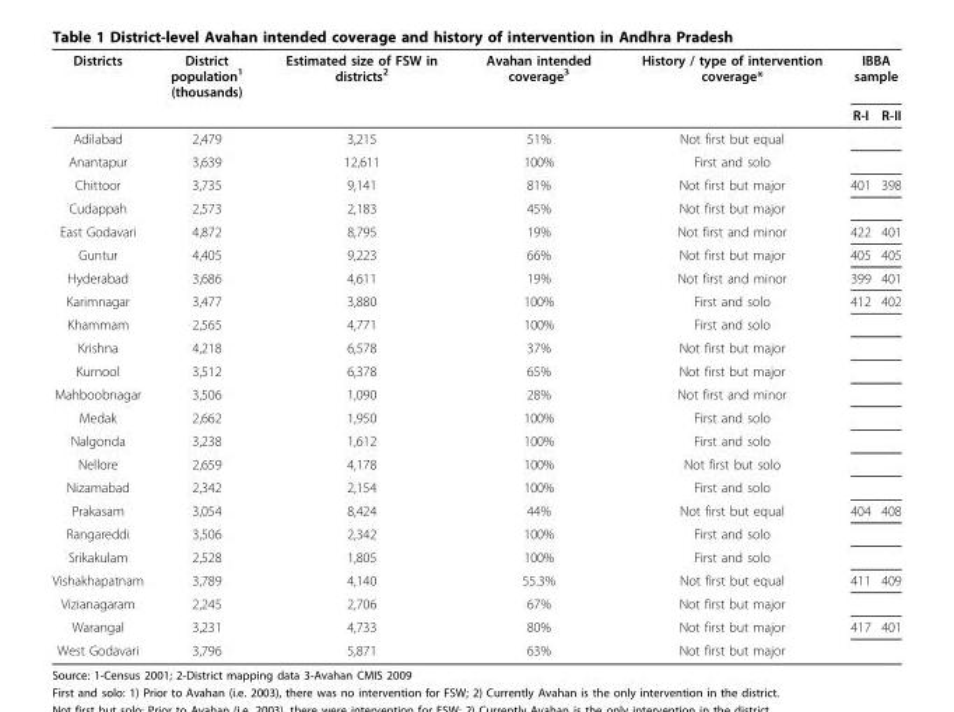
<table><thead><tr><td rowspan="2">Districts</td><td rowspan="2">District population<sup>1</sup> (thousands)</td><td rowspan="2">Estimated size of FSW in districts<sup>2</sup></td><td rowspan="2">Avahan intended coverage<sup>3</sup></td><td rowspan="2">History / type of intervention coverage*</td><td colspan="2">IBBA sample</td></tr><tr><td>R-I</td><td>R-II</td></tr></thead><tbody><tr><td>Adilabad</td><td>2,479</td><td>3,215</td><td>51%</td><td>Not first but equal</td><td></td><td></td></tr><tr><td>Anantapur</td><td>3,639</td><td>12,611</td><td>100%</td><td>First and solo</td><td></td><td></td></tr><tr><td>Chittoor</td><td>3,735</td><td>9,141</td><td>81%</td><td>Not first but major</td><td>401</td><td>398</td></tr><tr><td>Cudappah</td><td>2,573</td><td>2,183</td><td>45%</td><td>Not first but major</td><td></td><td></td></tr><tr><td>East Godavari</td><td>4,872</td><td>8,795</td><td>19%</td><td>Not first and minor</td><td>422</td><td>401</td></tr><tr><td>Guntur</td><td>4,405</td><td>9,223</td><td>66%</td><td>Not first but major</td><td>405</td><td>405</td></tr><tr><td>Hyderabad</td><td>3,686</td><td>4,611</td><td>19%</td><td>Not first and minor</td><td>399</td><td>401</td></tr><tr><td>Karimnagar</td><td>3,477</td><td>3,880</td><td>100%</td><td>First and solo</td><td>412</td><td>402</td></tr><tr><td>Khammam</td><td>2,565</td><td>4,771</td><td>100%</td><td>First and solo</td><td></td><td></td></tr><tr><td>Krishna</td><td>4,218</td><td>6,578</td><td>37%</td><td>Not first but major</td><td></td><td></td></tr><tr><td>Kurnool</td><td>3,512</td><td>6,378</td><td>65%</td><td>Not first but major</td><td></td><td></td></tr><tr><td>Mahboobnagar</td><td>3,506</td><td>1,090</td><td>28%</td><td>Not first and minor</td><td></td><td></td></tr><tr><td>Medak</td><td>2,662</td><td>1,950</td><td>100%</td><td>First and solo</td><td></td><td></td></tr><tr><td>Nalgonda</td><td>3,238</td><td>1,612</td><td>100%</td><td>First and solo</td><td></td><td></td></tr><tr><td>Nellore</td><td>2,659</td><td>4,178</td><td>100%</td><td>Not first but solo</td><td></td><td></td></tr><tr><td>Nizamabad</td><td>2,342</td><td>2,154</td><td>100%</td><td>First and solo</td><td></td><td></td></tr><tr><td>Prakasam</td><td>3,054</td><td>8,424</td><td>44%</td><td>Not first but equal</td><td>404</td><td>408</td></tr><tr><td>Rangareddi</td><td>3,506</td><td>2,342</td><td>100%</td><td>First and solo</td><td></td><td></td></tr><tr><td>Srikakulam</td><td>2,528</td><td>1,805</td><td>100%</td><td>First and solo</td><td></td><td></td></tr><tr><td>Vishakhapatnam</td><td>3,789</td><td>4,140</td><td>55.3%</td><td>Not first but equal</td><td>411</td><td>409</td></tr><tr><td>Vizianagaram</td><td>2,245</td><td>2,706</td><td>67%</td><td>Not first but major</td><td></td><td></td></tr><tr><td>Warangal</td><td>3,231</td><td>4,733</td><td>80%</td><td>Not first but major</td><td>417</td><td>401</td></tr><tr><td>West Godavari</td><td>3,796</td><td>5,871</td><td>63%</td><td>Not first but major</td><td></td><td></td></tr></tbody></table>